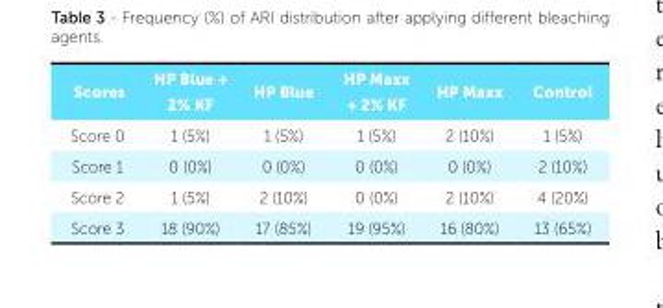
<table><thead><tr><td>Scores</td><td>HP Blue + 2% KF</td><td>HP Blue</td><td>HP Maxx + 2% KF</td><td>HP Maxx</td><td>Control</td></tr></thead><tbody><tr><td>Score 0</td><td>1 (5%)</td><td>1 (5%)</td><td>1 (5%)</td><td>2 (10%)</td><td>1 (5%)</td></tr><tr><td>Score 1</td><td>0 (0%)</td><td>0 (0%)</td><td>0 (0%)</td><td>0 (0%)</td><td>2 (10%)</td></tr><tr><td>Score 2</td><td>1 (5%)</td><td>2 (10%)</td><td>0 (0%)</td><td>2 (10%)</td><td>4 (20%)</td></tr><tr><td>Score 3</td><td>18 (90%)</td><td>17 (85%)</td><td>19 (95%)</td><td>16 (80%)</td><td>13 (65%)</td></tr></tbody></table>